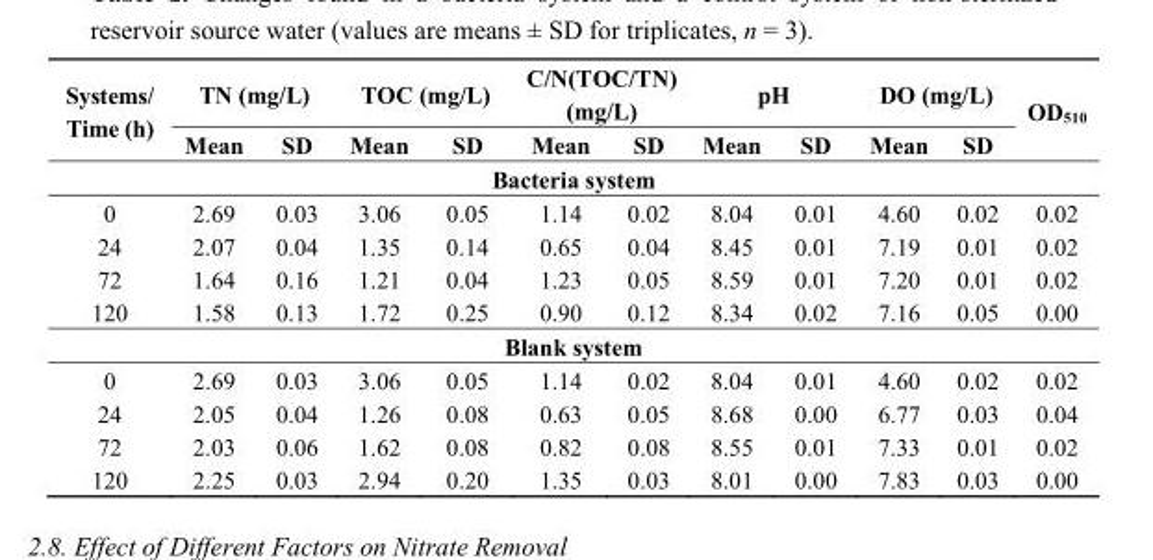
<table><thead><tr><td rowspan="2">Systems/ Time (h)</td><td colspan="2">TN (mg/L)</td><td colspan="2">TOC (mg/L)</td><td colspan="2">C/N(TOC/TN) (mg/L)</td><td colspan="2">pH</td><td colspan="2">DO (mg/L)</td><td rowspan="2">OD<sub>510</sub></td></tr><tr><td>Mean</td><td>SD</td><td>Mean</td><td>SD</td><td>Mean</td><td>SD</td><td>Mean</td><td>SD</td><td>Mean</td><td>SD</td></tr></thead><tbody><tr><td colspan="12">Bacteria system</td></tr><tr><td>0</td><td>2.69</td><td>0.03</td><td>3.06</td><td>0.05</td><td>1.14</td><td>0.02</td><td>8.04</td><td>0.01</td><td>4.60</td><td>0.02</td><td>0.02</td></tr><tr><td>24</td><td>2.07</td><td>0.04</td><td>1.35</td><td>0.14</td><td>0.65</td><td>0.04</td><td>8.45</td><td>0.01</td><td>7.19</td><td>0.01</td><td>0.02</td></tr><tr><td>72</td><td>1.64</td><td>0.16</td><td>1.21</td><td>0.04</td><td>1.23</td><td>0.05</td><td>8.59</td><td>0.01</td><td>7.20</td><td>0.01</td><td>0.02</td></tr><tr><td>120</td><td>1.58</td><td>0.13</td><td>1.72</td><td>0.25</td><td>0.90</td><td>0.12</td><td>8.34</td><td>0.02</td><td>7.16</td><td>0.05</td><td>0.00</td></tr><tr><td colspan="12">Blank system</td></tr><tr><td>0</td><td>2.69</td><td>0.03</td><td>3.06</td><td>0.05</td><td>1.14</td><td>0.02</td><td>8.04</td><td>0.01</td><td>4.60</td><td>0.02</td><td>0.02</td></tr><tr><td>24</td><td>2.05</td><td>0.04</td><td>1.26</td><td>0.08</td><td>0.63</td><td>0.05</td><td>8.68</td><td>0.00</td><td>6.77</td><td>0.03</td><td>0.04</td></tr><tr><td>72</td><td>2.03</td><td>0.06</td><td>1.62</td><td>0.08</td><td>0.82</td><td>0.08</td><td>8.55</td><td>0.01</td><td>7.33</td><td>0.01</td><td>0.02</td></tr><tr><td>120</td><td>2.25</td><td>0.03</td><td>2.94</td><td>0.20</td><td>1.35</td><td>0.03</td><td>8.01</td><td>0.00</td><td>7.83</td><td>0.03</td><td>0.00</td></tr></tbody></table>